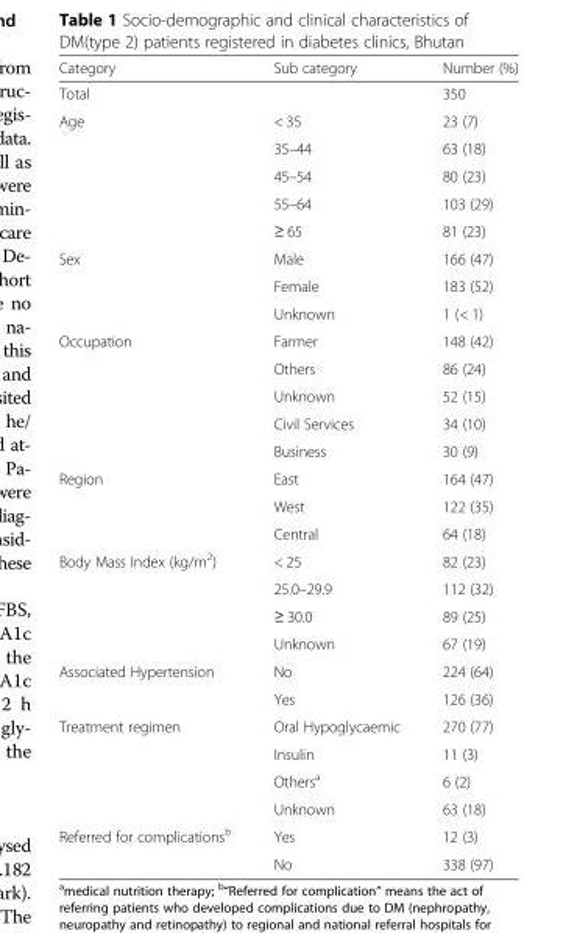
<table><thead><tr><td>Category</td><td>Sub category</td><td>Number (%)</td></tr></thead><tbody><tr><td>Total</td><td></td><td>350</td></tr><tr><td rowspan="5">Age</td><td>&lt; 35</td><td>23 (7)</td></tr><tr><td>35–44</td><td>63 (18)</td></tr><tr><td>45–54</td><td>80 (23)</td></tr><tr><td>55–64</td><td>103 (29)</td></tr><tr><td>≥ 65</td><td>81 (23)</td></tr><tr><td rowspan="3">Sex</td><td>Male</td><td>166 (47)</td></tr><tr><td>Female</td><td>183 (52)</td></tr><tr><td>Unknown</td><td>1 (&lt; 1)</td></tr><tr><td rowspan="5">Occupation</td><td>Farmer</td><td>148 (42)</td></tr><tr><td>Others</td><td>86 (24)</td></tr><tr><td>Unknown</td><td>52 (15)</td></tr><tr><td>Civil Services</td><td>34 (10)</td></tr><tr><td>Business</td><td>30 (9)</td></tr><tr><td rowspan="3">Region</td><td>East</td><td>164 (47)</td></tr><tr><td>West</td><td>122 (35)</td></tr><tr><td>Central</td><td>64 (18)</td></tr><tr><td rowspan="4">Body Mass Index (kg/m<sup>2</sup>)</td><td>&lt; 25</td><td>82 (23)</td></tr><tr><td>25.0–29.9</td><td>112 (32)</td></tr><tr><td>≥ 30.0</td><td>89 (25)</td></tr><tr><td>Unknown</td><td>67 (19)</td></tr><tr><td rowspan="2">Associated Hypertension</td><td>No</td><td>224 (64)</td></tr><tr><td>Yes</td><td>126 (36)</td></tr><tr><td rowspan="4">Treatment regimen</td><td>Oral Hypoglycaemic</td><td>270 (77)</td></tr><tr><td>Insulin</td><td>11 (3)</td></tr><tr><td>Others<sup>a</sup></td><td>6 (2)</td></tr><tr><td>Unknown</td><td>63 (18)</td></tr><tr><td rowspan="2">Referred for complications<sup>b</sup></td><td>Yes</td><td>12 (3)</td></tr><tr><td>No</td><td>338 (97)</td></tr></tbody></table>